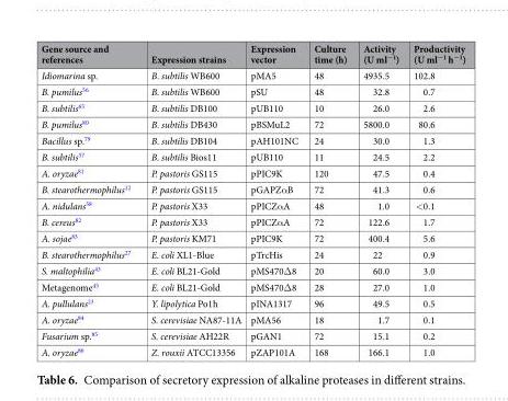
<table><thead><tr><td>Gene source and references</td><td>Expression strains</td><td>Expression vector</td><td>Culture time (h)</td><td>Activity (U ml<sup>−1</sup>)</td><td>Productivity (U ml<sup>−1</sup> h<sup>−1</sup>)</td></tr></thead><tbody><tr><td>Idiomarina sp.</td><td>B. subtilis WB600</td><td>pMA5</td><td>48</td><td>4935.5</td><td>102.8</td></tr><tr><td>B. pumilus<sup>56</sup></td><td>B. subtilis WB600</td><td>pSU</td><td>48</td><td>32.8</td><td>0.7</td></tr><tr><td>B. subtilis<sup>65</sup></td><td>B. subtilis DB100</td><td>pUB110</td><td>10</td><td>26.0</td><td>2.6</td></tr><tr><td>B. pumilus<sup>80</sup></td><td>B. subtilis DB430</td><td>pBSMuL2</td><td>72</td><td>5800.0</td><td>80.6</td></tr><tr><td>Bacillus sp.<sup>79</sup></td><td>B. subtilis DB104</td><td>pAH101NC</td><td>24</td><td>30.0</td><td>1.3</td></tr><tr><td>B. subtilis<sup>57</sup></td><td>B. subtilis Bios11</td><td>pUB110</td><td>11</td><td>24.5</td><td>2.2</td></tr><tr><td>A. oryzae<sup>81</sup></td><td>P. pastoris GS115</td><td>pPIC9K</td><td>120</td><td>47.5</td><td>0.4</td></tr><tr><td>B. stearothermophilus<sup>12</sup></td><td>P. pastoris GS115</td><td>pGAPZαB</td><td>72</td><td>41.3</td><td>0.6</td></tr><tr><td>A. nidulans<sup>58</sup></td><td>P. pastoris X33</td><td>pPICZαA</td><td>48</td><td>1.0</td><td>&lt;0.1</td></tr><tr><td>B. cereus<sup>82</sup></td><td>P. pastoris X33</td><td>pPICZαA</td><td>72</td><td>122.6</td><td>1.7</td></tr><tr><td>A. sojae<sup>83</sup></td><td>P. pastoris KM71</td><td>pPIC9K</td><td>72</td><td>400.4</td><td>5.6</td></tr><tr><td>B. stearothermophilus<sup>27</sup></td><td>E. coli XL1-Blue</td><td>pTrcHis</td><td>24</td><td>22</td><td>0.9</td></tr><tr><td>S. maltophilia<sup>43</sup></td><td>E. coli BL21-Gold</td><td>pMS470Δ8</td><td>20</td><td>60.0</td><td>3.0</td></tr><tr><td>Metagenome<sup>45</sup></td><td>E. coli BL21-Gold</td><td>pMS470Δ8</td><td>28</td><td>27.0</td><td>1.0</td></tr><tr><td>A. pullulans<sup>23</sup></td><td>Y. lipolytica Po1h</td><td>pINA1317</td><td>96</td><td>49.5</td><td>0.5</td></tr><tr><td>A. oryzae<sup>84</sup></td><td>S. cerevisiae NA87-11A</td><td>pMA56</td><td>18</td><td>1.7</td><td>0.1</td></tr><tr><td>Fusarium sp.<sup>85</sup></td><td>S. cerevisiae AH22R</td><td>pGAN1</td><td>72</td><td>15.1</td><td>0.2</td></tr><tr><td>A. oryzae<sup>86</sup></td><td>Z. rouxii ATCC13356</td><td>pZAP101A</td><td>168</td><td>166.1</td><td>1.0</td></tr></tbody></table>